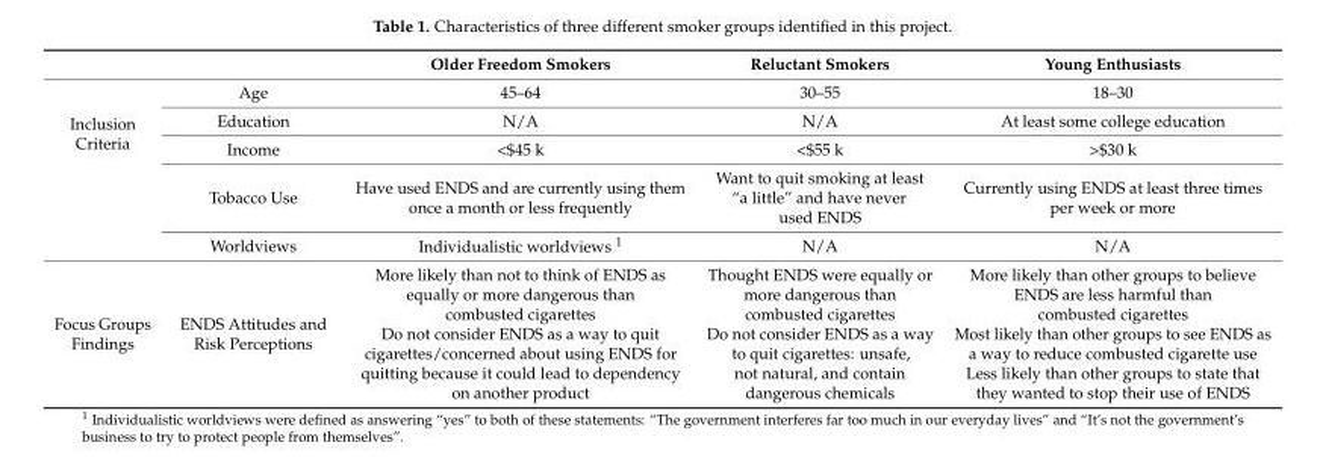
<table><thead><tr><td></td><td></td><td>Older Freedom Smokers</td><td>Reluctant Smokers</td><td>Young Enthusiasts</td></tr></thead><tbody><tr><td rowspan="5">Inclusion Criteria</td><td>Age</td><td>45–64</td><td>30–55</td><td>18–30</td></tr><tr><td>Education</td><td>N/A</td><td>N/A</td><td>At least some college education</td></tr><tr><td>Income</td><td>&lt;$45 k</td><td>&lt;$55 k</td><td>&gt;$30 k</td></tr><tr><td>Tobacco Use</td><td>Have used ENDS and are currently using them once a month or less frequently</td><td>Want to quit smoking at least “a little” and have never used ENDS</td><td>Currently using ENDS at least three times per week or more</td></tr><tr><td>Worldviews</td><td>Individualistic worldviews <sup>1</sup></td><td>N/A</td><td>N/A</td></tr><tr><td>Focus Groups Findings</td><td>ENDS Attitudes and Risk Perceptions</td><td>More likely than not to think of ENDS as equally or more dangerous than combusted cigarettes Do not consider ENDS as a way to quit cigarettes/concerned about using ENDS for quitting because it could lead to dependency on another product</td><td>Thought ENDS were equally or more dangerous than combusted cigarettes Do not consider ENDS as a way to quit cigarettes: unsafe, not natural, and contain dangerous chemicals</td><td>More likely than other groups to believe ENDS are less harmful than combusted cigarettes Most likely than other groups to see ENDS as a way to reduce combusted cigarette use Less likely than other groups to state that they wanted to stop their use of ENDS</td></tr></tbody></table>